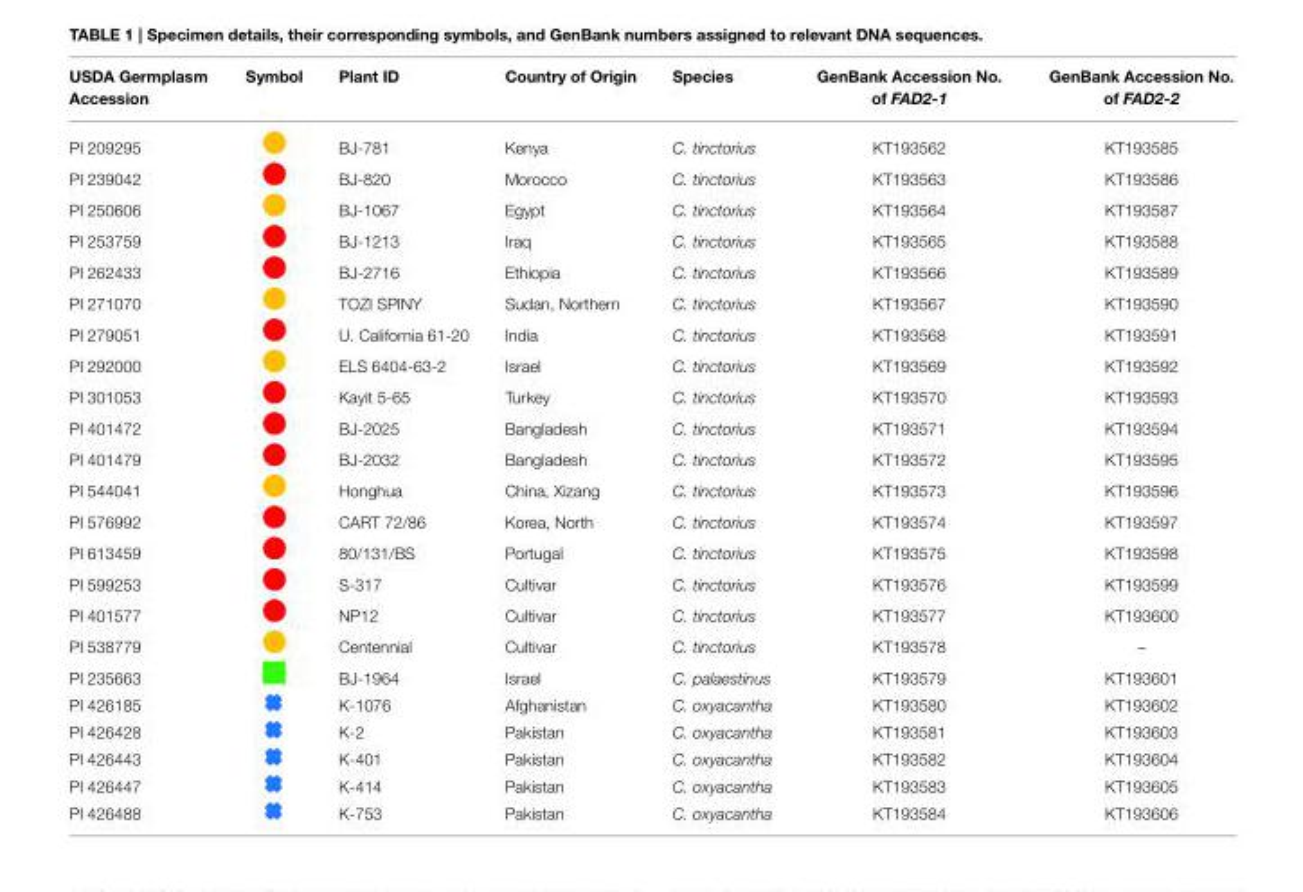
<table><thead><tr><td>USDA Germplasm Accession</td><td>Symbol</td><td>Plant ID</td><td>Country of Origin</td><td>Species</td><td>GenBank Accession No. of FAD2-1</td><td>GenBank Accession No. of FAD2-2</td></tr></thead><tbody><tr><td>PI 209295</td><td></td><td>BJ-781</td><td>Kenya</td><td>C. tinctorius</td><td>KT193562</td><td>KT193585</td></tr><tr><td>PI 239042</td><td></td><td>BJ-820</td><td>Morocco</td><td>C. tinctorius</td><td>KT193563</td><td>KT193586</td></tr><tr><td>PI 250606</td><td></td><td>BJ-1067</td><td>Egypt</td><td>C. tinctorius</td><td>KT193564</td><td>KT193587</td></tr><tr><td>PI 253759</td><td></td><td>BJ-1213</td><td>Iraq</td><td>C. tinctorius</td><td>KT193565</td><td>KT193588</td></tr><tr><td>PI 262433</td><td></td><td>BJ-2716</td><td>Ethiopia</td><td>C. tinctorius</td><td>KT193566</td><td>KT193589</td></tr><tr><td>PI 271070</td><td></td><td>TOZI SPINY</td><td>Sudan, Northern</td><td>C. tinctorius</td><td>KT193567</td><td>KT193590</td></tr><tr><td>PI 279051</td><td></td><td>U. California 61-20</td><td>India</td><td>C. tinctorius</td><td>KT193568</td><td>KT193591</td></tr><tr><td>PI 292000</td><td></td><td>ELS 6404-63-2</td><td>Israel</td><td>C. tinctorius</td><td>KT193569</td><td>KT193592</td></tr><tr><td>PI 301053</td><td></td><td>Kayit 5-65</td><td>Turkey</td><td>C. tinctorius</td><td>KT193570</td><td>KT193593</td></tr><tr><td>PI 401472</td><td></td><td>BJ-2025</td><td>Bangladesh</td><td>C. tinctorius</td><td>KT193571</td><td>KT193594</td></tr><tr><td>PI 401479</td><td></td><td>BJ-2032</td><td>Bangladesh</td><td>C. tinctorius</td><td>KT193572</td><td>KT193595</td></tr><tr><td>PI 544041</td><td></td><td>Honghua</td><td>China, Xizang</td><td>C. tinctorius</td><td>KT193573</td><td>KT193596</td></tr><tr><td>PI 576992</td><td></td><td>CART 72/86</td><td>Korea, North</td><td>C. tinctorius</td><td>KT193574</td><td>KT193597</td></tr><tr><td>PI 613459</td><td></td><td>80/131/BS</td><td>Portugal</td><td>C. tinctorius</td><td>KT193575</td><td>KT193598</td></tr><tr><td>PI 599253</td><td></td><td>S-317</td><td>Cultivar</td><td>C. tinctorius</td><td>KT193576</td><td>KT193599</td></tr><tr><td>PI 401577</td><td></td><td>NP12</td><td>Cultivar</td><td>C. tinctorius</td><td>KT193577</td><td>KT193600</td></tr><tr><td>PI 538779</td><td></td><td>Centennial</td><td>Cultivar</td><td>C. tinctorius</td><td>KT193578</td><td>–</td></tr><tr><td>PI 235663</td><td></td><td>BJ-1964</td><td>Israel</td><td>C. palaestinus</td><td>KT193579</td><td>KT193601</td></tr><tr><td>PI 426185</td><td></td><td>K-1076</td><td>Afghanistan</td><td>C. oxyacantha</td><td>KT193580</td><td>KT193602</td></tr><tr><td>PI 426428</td><td></td><td>K-2</td><td>Pakistan</td><td>C. oxyacantha</td><td>KT193581</td><td>KT193603</td></tr><tr><td>PI 426443</td><td></td><td>K-401</td><td>Pakistan</td><td>C. oxyacantha</td><td>KT193582</td><td>KT193604</td></tr><tr><td>PI 426447</td><td></td><td>K-414</td><td>Pakistan</td><td>C. oxyacantha</td><td>KT193583</td><td>KT193605</td></tr><tr><td>PI 426488</td><td></td><td>K-753</td><td>Pakistan</td><td>C. oxyacantha</td><td>KT193584</td><td>KT193606</td></tr></tbody></table>